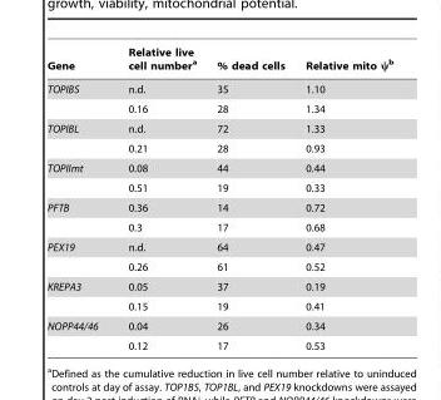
<table><thead><tr><td>Gene</td><td>Relative live cell number<sup>a</sup></td><td>% dead cells</td><td>Relative mito ψ<sup>b</sup></td></tr></thead><tbody><tr><td rowspan="2">TOPIBS</td><td>n.d.</td><td>35</td><td>1.10</td></tr><tr><td>0.16</td><td>28</td><td>1.34</td></tr><tr><td rowspan="2">TOPIBL</td><td>n.d.</td><td>72</td><td>1.33</td></tr><tr><td>0.21</td><td>28</td><td>0.93</td></tr><tr><td rowspan="2">TOPIImt</td><td>0.08</td><td>44</td><td>0.44</td></tr><tr><td>0.51</td><td>19</td><td>0.33</td></tr><tr><td rowspan="2">PFTB</td><td>0.36</td><td>14</td><td>0.72</td></tr><tr><td>0.3</td><td>17</td><td>0.68</td></tr><tr><td rowspan="2">PEX19</td><td>n.d.</td><td>64</td><td>0.47</td></tr><tr><td>0.26</td><td>61</td><td>0.52</td></tr><tr><td rowspan="2">KREPA3</td><td>0.05</td><td>37</td><td>0.19</td></tr><tr><td>0.15</td><td>19</td><td>0.41</td></tr><tr><td rowspan="2">NOPP44/46</td><td>0.04</td><td>26</td><td>0.34</td></tr><tr><td>0.12</td><td>17</td><td>0.53</td></tr></tbody></table>